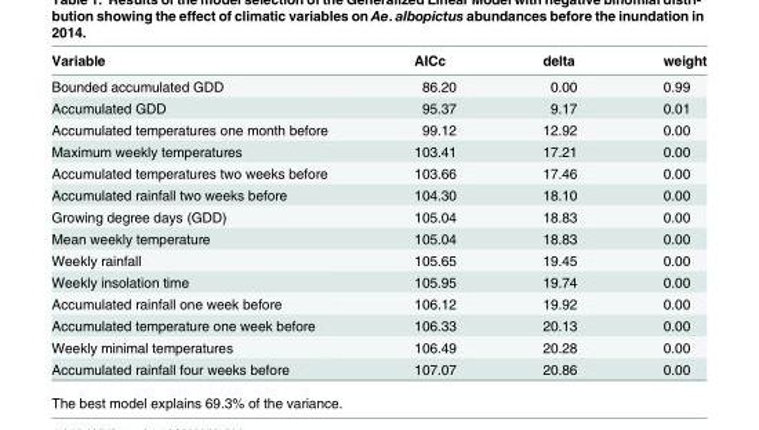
<table><thead><tr><td>Variable</td><td>AICc</td><td>delta</td><td>weight</td></tr></thead><tbody><tr><td>Bounded accumulated GDD</td><td>86.20</td><td>0.00</td><td>0.99</td></tr><tr><td>Accumulated GDD</td><td>95.37</td><td>9.17</td><td>0.01</td></tr><tr><td>Accumulated temperatures one month before</td><td>99.12</td><td>12.92</td><td>0.00</td></tr><tr><td>Maximum weekly temperatures</td><td>103.41</td><td>17.21</td><td>0.00</td></tr><tr><td>Accumulated temperatures two weeks before</td><td>103.66</td><td>17.46</td><td>0.00</td></tr><tr><td>Accumulated rainfall two weeks before</td><td>104.30</td><td>18.10</td><td>0.00</td></tr><tr><td>Growing degree days (GDD)</td><td>105.04</td><td>18.83</td><td>0.00</td></tr><tr><td>Mean weekly temperature</td><td>105.04</td><td>18.83</td><td>0.00</td></tr><tr><td>Weekly rainfall</td><td>105.65</td><td>19.45</td><td>0.00</td></tr><tr><td>Weekly insolation time</td><td>105.95</td><td>19.74</td><td>0.00</td></tr><tr><td>Accumulated rainfall one week before</td><td>106.12</td><td>19.92</td><td>0.00</td></tr><tr><td>Accumulated temperature one week before</td><td>106.33</td><td>20.13</td><td>0.00</td></tr><tr><td>Weekly minimal temperatures</td><td>106.49</td><td>20.28</td><td>0.00</td></tr><tr><td>Accumulated rainfall four weeks before</td><td>107.07</td><td>20.86</td><td>0.00</td></tr></tbody></table>